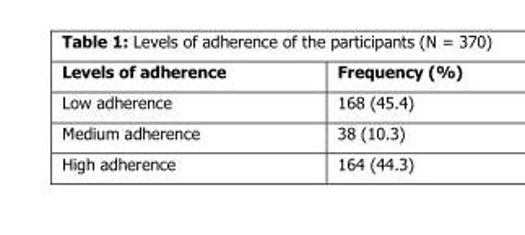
<table><thead><tr><td>Levels of adherence</td><td>Frequency (%)</td></tr></thead><tbody><tr><td>Low adherence</td><td>168 (45.4)</td></tr><tr><td>Medium adherence</td><td>38 (10.3)</td></tr><tr><td>High adherence</td><td>164 (44.3)</td></tr></tbody></table>